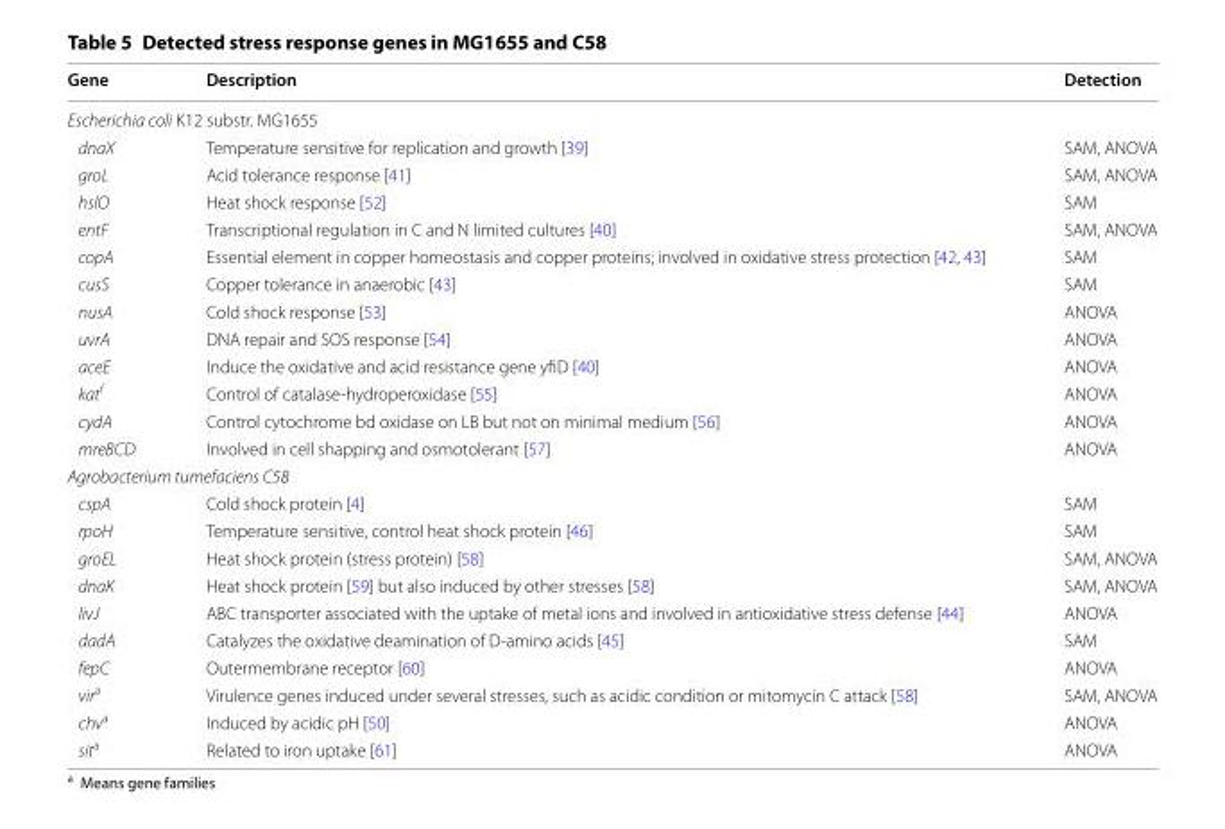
<table><thead><tr><td>Gene</td><td>Description</td><td>Detection</td></tr></thead><tbody><tr><td colspan="3">Escherichia coli K12 substr. MG1655</td></tr><tr><td>dnaX</td><td>Temperature sensitive for replication and growth [39]</td><td>SAM, ANOVA</td></tr><tr><td>groL</td><td>Acid tolerance response [41]</td><td>SAM, ANOVA</td></tr><tr><td>hslO</td><td>Heat shock response [52]</td><td>SAM</td></tr><tr><td>entF</td><td>Transcriptional regulation in C and N limited cultures [40]</td><td>SAM, ANOVA</td></tr><tr><td>copA</td><td>Essential element in copper homeostasis and copper proteins; involved in oxidative stress protection [42, 43]</td><td>SAM</td></tr><tr><td>cusS</td><td>Copper tolerance in anaerobic [43]</td><td>SAM</td></tr><tr><td>nusA</td><td>Cold shock response [53]</td><td>ANOVA</td></tr><tr><td>uvrA</td><td>DNA repair and SOS response [54]</td><td>ANOVA</td></tr><tr><td>aceE</td><td>Induce the oxidative and acid resistance gene yfiD [40]</td><td>ANOVA</td></tr><tr><td>kat<sup>f</sup></td><td>Control of catalase‑hydroperoxidase [55]</td><td>ANOVA</td></tr><tr><td>cydA</td><td>Control cytochrome bd oxidase on LB but not on minimal medium [56]</td><td>ANOVA</td></tr><tr><td>mreBCD</td><td>Involved in cell shapping and osmotolerant [57]</td><td>ANOVA</td></tr><tr><td colspan="3">Agrobacterium tumefaciens C58</td></tr><tr><td>cspA</td><td>Cold shock protein [4]</td><td>SAM</td></tr><tr><td>rpoH</td><td>Temperature sensitive, control heat shock protein [46]</td><td>SAM</td></tr><tr><td>groEL</td><td>Heat shock protein (stress protein) [58]</td><td>SAM, ANOVA</td></tr><tr><td>dnaK</td><td>Heat shock protein [59] but also induced by other stresses [58]</td><td>SAM, ANOVA</td></tr><tr><td>livJ</td><td>ABC transporter associated with the uptake of metal ions and involved in antioxidative stress defense [44]</td><td>ANOVA</td></tr><tr><td>dadA</td><td>Catalyzes the oxidative deamination of D‑amino acids [45]</td><td>SAM</td></tr><tr><td>fepC</td><td>Outermembrane receptor [60]</td><td>ANOVA</td></tr><tr><td>vir<sup>a</sup></td><td>Virulence genes induced under several stresses, such as acidic condition or mitomycin C attack [58]</td><td>SAM, ANOVA</td></tr><tr><td>chv<sup>a</sup></td><td>Induced by acidic pH [50]</td><td>ANOVA</td></tr><tr><td>sit<sup>a</sup></td><td>Related to iron uptake [61]</td><td>ANOVA</td></tr></tbody></table>